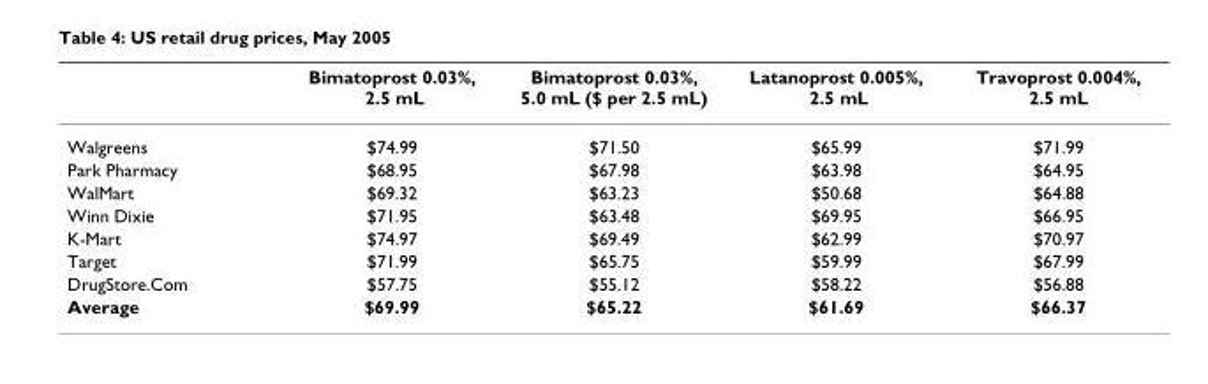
<table><thead><tr><td></td><td>Bimatoprost 0.03%, 2.5 mL</td><td>Bimatoprost 0.03%, 5.0 mL ($ per 2.5 mL)</td><td>Latanoprost 0.005%, 2.5 mL</td><td>Travoprost 0.004%, 2.5 mL</td></tr></thead><tbody><tr><td>Walgreens</td><td>$74.99</td><td>$71.50</td><td>$65.99</td><td>$71.99</td></tr><tr><td>Park Pharmacy</td><td>$68.95</td><td>$67.98</td><td>$63.98</td><td>$64.95</td></tr><tr><td>WalMart</td><td>$69.32</td><td>$63.23</td><td>$50.68</td><td>$64.88</td></tr><tr><td>Winn Dixie</td><td>$71.95</td><td>$63.48</td><td>$69.95</td><td>$66.95</td></tr><tr><td>K-Mart</td><td>$74.97</td><td>$69.49</td><td>$62.99</td><td>$70.97</td></tr><tr><td>Target</td><td>$71.99</td><td>$65.75</td><td>$59.99</td><td>$67.99</td></tr><tr><td>DrugStore.Com</td><td>$57.75</td><td>$55.12</td><td>$58.22</td><td>$56.88</td></tr><tr><td>Average</td><td>$69.99</td><td>$65.22</td><td>$61.69</td><td>$66.37</td></tr></tbody></table>